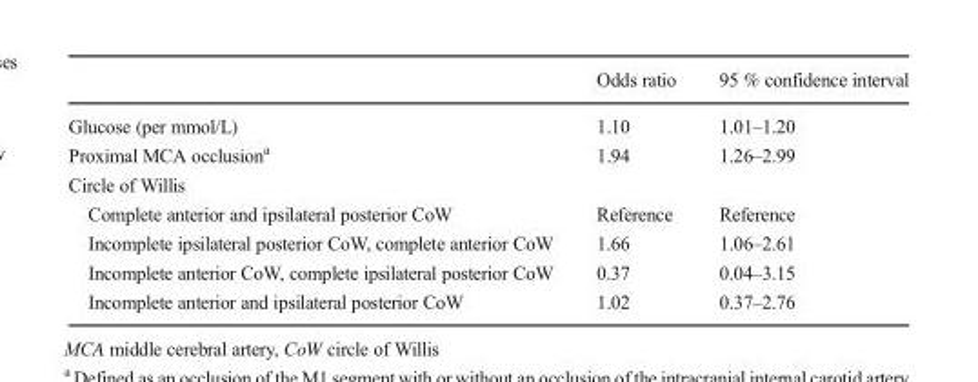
<table><thead><tr><td></td><td>Odds ratio</td><td>95 % confidence interval</td></tr></thead><tbody><tr><td>Glucose (per mmol/L)</td><td>1.10</td><td>1.01–1.20</td></tr><tr><td>Proximal MCA occlusion<sup>a</sup></td><td>1.94</td><td>1.26–2.99</td></tr><tr><td colspan="3">Circle of Willis</td></tr><tr><td>Complete anterior and ipsilateral posterior CoW</td><td>Reference</td><td>Reference</td></tr><tr><td>Incomplete ipsilateral posterior CoW, complete anterior CoW</td><td>1.66</td><td>1.06–2.61</td></tr><tr><td>Incomplete anterior CoW, complete ipsilateral posterior CoW</td><td>0.37</td><td>0.04–3.15</td></tr><tr><td>Incomplete anterior and ipsilateral posterior CoW</td><td>1.02</td><td>0.37–2.76</td></tr></tbody></table>